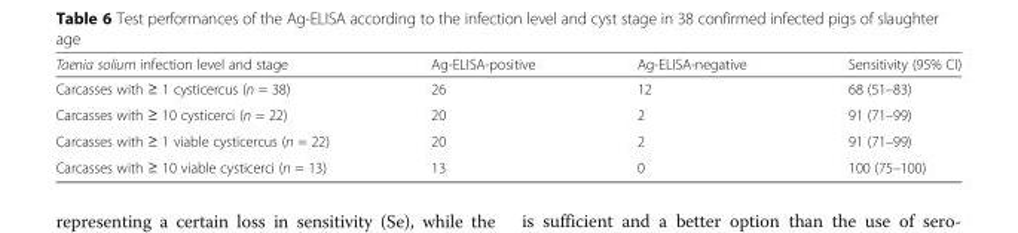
<table><thead><tr><td>Taenia solium infection level and stage</td><td>Ag-ELISA-positive</td><td>Ag-ELISA-negative</td><td>Sensitivity (95% CI)</td></tr></thead><tbody><tr><td>Carcasses with ≥ 1 cysticercus (n = 38)</td><td>26</td><td>12</td><td>68 (51–83)</td></tr><tr><td>Carcasses with ≥ 10 cysticerci (n = 22)</td><td>20</td><td>2</td><td>91 (71–99)</td></tr><tr><td>Carcasses with ≥ 1 viable cysticercus (n = 22)</td><td>20</td><td>2</td><td>91 (71–99)</td></tr><tr><td>Carcasses with ≥ 10 viable cysticerci (n = 13)</td><td>13</td><td>0</td><td>100 (75–100)</td></tr></tbody></table>